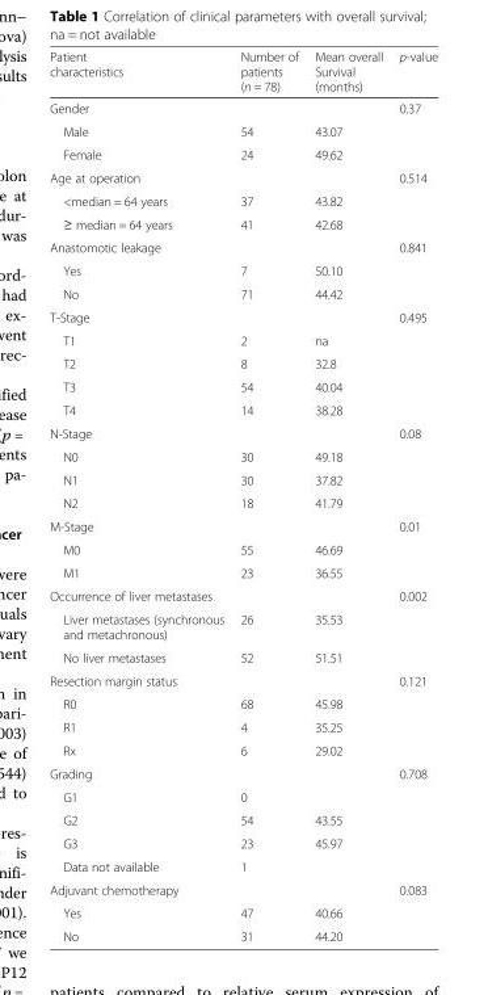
<table><thead><tr><td>Patient characteristics</td><td>Number of patients (n = 78)</td><td>Mean overall Survival (months)</td><td>p-value</td></tr></thead><tbody><tr><td>Gender</td><td></td><td></td><td>0.37</td></tr><tr><td>Male</td><td>54</td><td>43.07</td><td></td></tr><tr><td>Female</td><td>24</td><td>49.62</td><td></td></tr><tr><td>Age at operation</td><td></td><td></td><td>0.514</td></tr><tr><td>&lt;median = 64 years</td><td>37</td><td>43.82</td><td></td></tr><tr><td>≥ median = 64 years</td><td>41</td><td>42.68</td><td></td></tr><tr><td>Anastomotic leakage</td><td></td><td></td><td>0.841</td></tr><tr><td>Yes</td><td>7</td><td>50.10</td><td></td></tr><tr><td>No</td><td>71</td><td>44.42</td><td></td></tr><tr><td>T-Stage</td><td></td><td></td><td>0.495</td></tr><tr><td>T1</td><td>2</td><td>na</td><td></td></tr><tr><td>T2</td><td>8</td><td>32.8</td><td></td></tr><tr><td>T3</td><td>54</td><td>40.04</td><td></td></tr><tr><td>T4</td><td>14</td><td>38.28</td><td></td></tr><tr><td>N-Stage</td><td></td><td></td><td>0.08</td></tr><tr><td>N0</td><td>30</td><td>49.18</td><td></td></tr><tr><td>N1</td><td>30</td><td>37.82</td><td></td></tr><tr><td>N2</td><td>18</td><td>41.79</td><td></td></tr><tr><td>M-Stage</td><td></td><td></td><td>0.01</td></tr><tr><td>M0</td><td>55</td><td>46.69</td><td></td></tr><tr><td>M1</td><td>23</td><td>36.55</td><td></td></tr><tr><td>Occurrence of liver metastases</td><td></td><td></td><td>0.002</td></tr><tr><td>Liver metastases (synchronous and metachronous)</td><td>26</td><td>35.53</td><td></td></tr><tr><td>No liver metastases</td><td>52</td><td>51.51</td><td></td></tr><tr><td>Resection margin status</td><td></td><td></td><td>0.121</td></tr><tr><td>R0</td><td>68</td><td>45.98</td><td></td></tr><tr><td>R1</td><td>4</td><td>35.25</td><td></td></tr><tr><td>Rx</td><td>6</td><td>29.02</td><td></td></tr><tr><td>Grading</td><td></td><td></td><td>0.708</td></tr><tr><td>G1</td><td>0</td><td></td><td></td></tr><tr><td>G2</td><td>54</td><td>43.55</td><td></td></tr><tr><td>G3</td><td>23</td><td>45.97</td><td></td></tr><tr><td>Data not available</td><td>1</td><td></td><td></td></tr><tr><td>Adjuvant chemotherapy</td><td></td><td></td><td>0.083</td></tr><tr><td>Yes</td><td>47</td><td>40.66</td><td></td></tr><tr><td>No</td><td>31</td><td>44.20</td><td></td></tr></tbody></table>